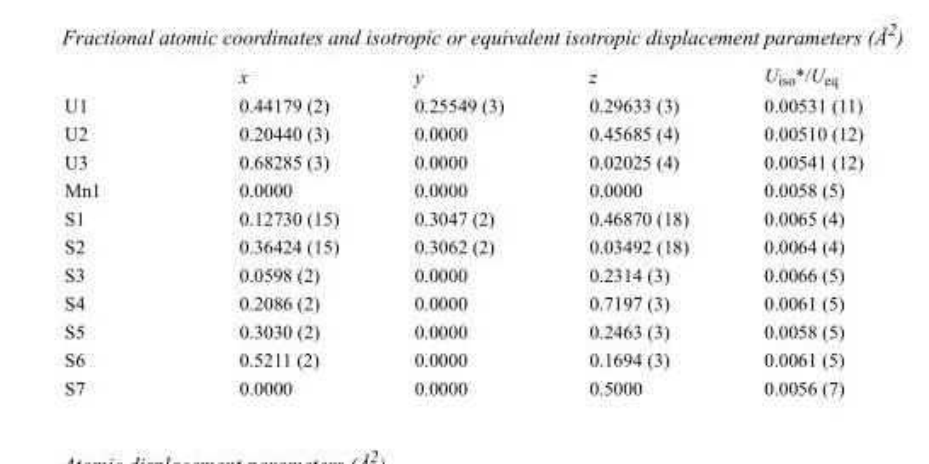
<table><thead><tr><td></td><td>x</td><td>y</td><td>z</td><td>U<sub>iso</sub>*/U<sub>eq</sub></td></tr></thead><tbody><tr><td>U1</td><td>0.44179 (2)</td><td>0.25549 (3)</td><td>0.29633 (3)</td><td>0.00531 (11)</td></tr><tr><td>U2</td><td>0.20440 (3)</td><td>0.0000</td><td>0.45685 (4)</td><td>0.00510 (12)</td></tr><tr><td>U3</td><td>0.68285 (3)</td><td>0.0000</td><td>0.02025 (4)</td><td>0.00541 (12)</td></tr><tr><td>Mn1</td><td>0.0000</td><td>0.0000</td><td>0.0000</td><td>0.0058 (5)</td></tr><tr><td>S1</td><td>0.12730 (15)</td><td>0.3047 (2)</td><td>0.46870 (18)</td><td>0.0065 (4)</td></tr><tr><td>S2</td><td>0.36424 (15)</td><td>0.3062 (2)</td><td>0.03492 (18)</td><td>0.0064 (4)</td></tr><tr><td>S3</td><td>0.0598 (2)</td><td>0.0000</td><td>0.2314 (3)</td><td>0.0066 (5)</td></tr><tr><td>S4</td><td>0.2086 (2)</td><td>0.0000</td><td>0.7197 (3)</td><td>0.0061 (5)</td></tr><tr><td>S5</td><td>0.3030 (2)</td><td>0.0000</td><td>0.2463 (3)</td><td>0.0058 (5)</td></tr><tr><td>S6</td><td>0.5211 (2)</td><td>0.0000</td><td>0.1694 (3)</td><td>0.0061 (5)</td></tr><tr><td>S7</td><td>0.0000</td><td>0.0000</td><td>0.5000</td><td>0.0056 (7)</td></tr></tbody></table>